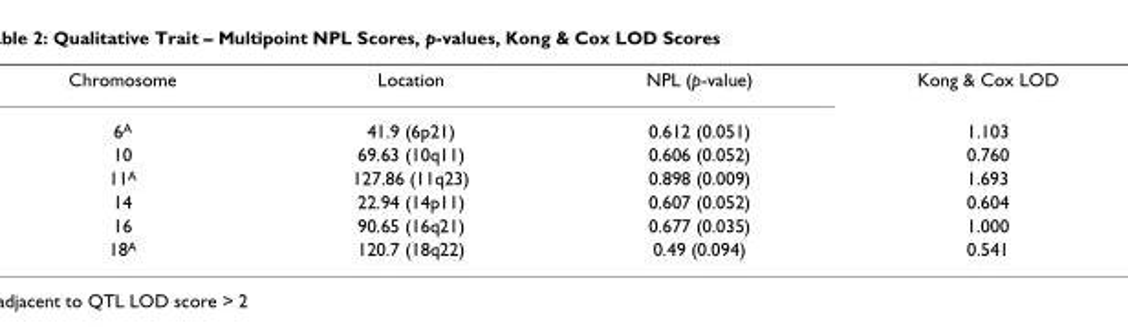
<table><tbody><tr><td>Chromosome</td><td>Location</td><td>NPL (p-value)</td><td>Kong &amp; Cox LOD</td></tr><tr><td>6A</td><td>41.9 (6p21)</td><td>0.612 (0.051)</td><td>1.103</td></tr><tr><td>10</td><td>69.63 (10q11)</td><td>0.606 (0.052)</td><td>0.760</td></tr><tr><td>11A</td><td>127.86 (11q23)</td><td>0.898 (0.009)</td><td>1.693</td></tr><tr><td>14</td><td>22.94 (14p11)</td><td>0.607 (0.052)</td><td>0.604</td></tr><tr><td>16</td><td>90.65 (16q21)</td><td>0.677 (0.035)</td><td>1.000</td></tr><tr><td>18A</td><td>120.7 (18q22)</td><td>0.49 (0.094)</td><td>0.541</td></tr></tbody></table>